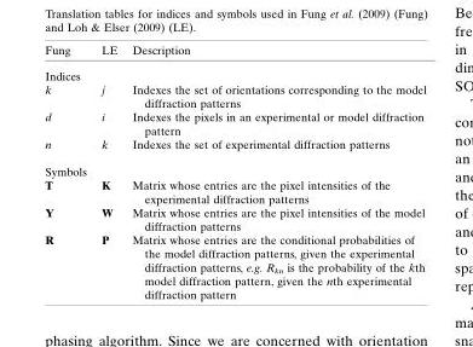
<table><thead><tr><td>Fung</td><td>LE</td><td>Description</td></tr></thead><tbody><tr><td colspan="3">Indices</td></tr><tr><td>k</td><td>j</td><td>Indexes the set of orientations corresponding to the model diffraction patterns</td></tr><tr><td>d</td><td>i</td><td>Indexes the pixels in an experimental or model diffraction pattern</td></tr><tr><td>n</td><td>k</td><td>Indexes the set of experimental diffraction patterns</td></tr><tr><td colspan="3">Symbols</td></tr><tr><td>T</td><td>K</td><td>Matrix whose entries are the pixel intensities of the experimental diffraction patterns</td></tr><tr><td>Y</td><td>W</td><td>Matrix whose entries are the pixel intensities of the model diffraction patterns</td></tr><tr><td>R</td><td>P</td><td>Matrix whose entries are the conditional probabilities of the model diffraction patterns, given the experimental diffraction patterns, e.g. R<sub>kn</sub> is the probability of the kth model diffraction pattern, given the nth experimental diffraction pattern</td></tr></tbody></table>